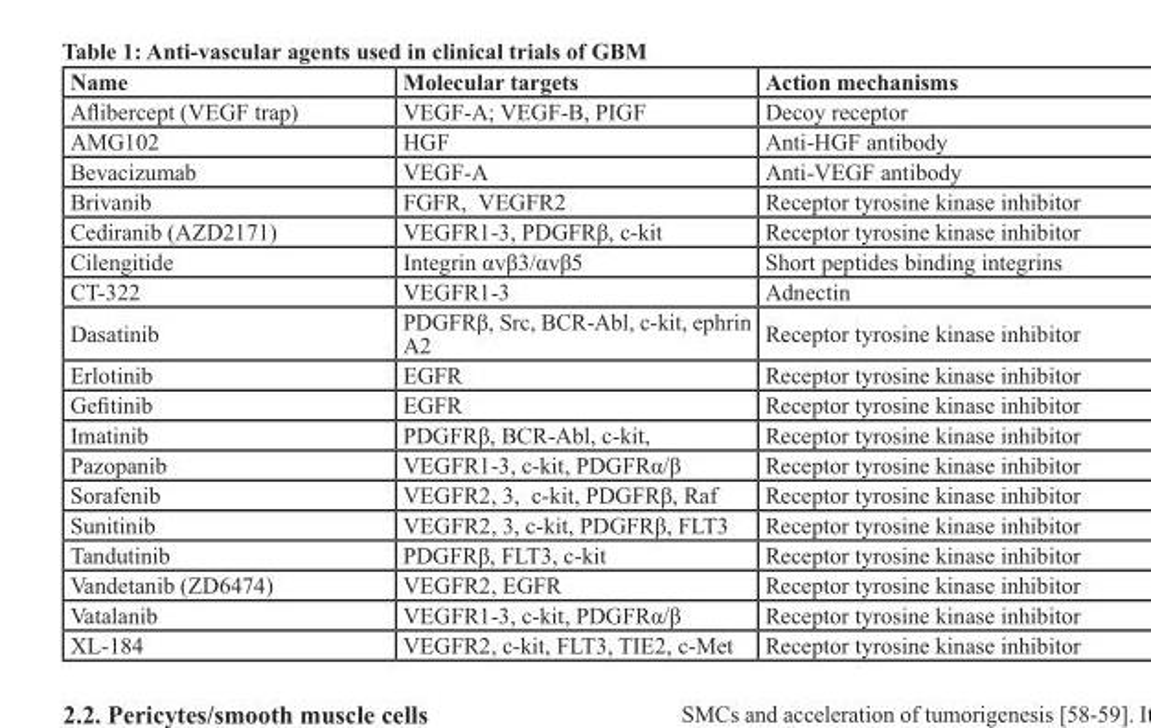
<table><thead><tr><td>Name</td><td>Molecular targets</td><td>Action mechanisms</td></tr></thead><tbody><tr><td>Aflibercept (VEGF trap)</td><td>VEGF-A; VEGF-B, PIGF</td><td>Decoy receptor</td></tr><tr><td>AMG102</td><td>HGF</td><td>Anti-HGF antibody</td></tr><tr><td>Bevacizumab</td><td>VEGF-A</td><td>Anti-VEGF antibody</td></tr><tr><td>Brivanib</td><td>FGFR, VEGFR2</td><td>Receptor tyrosine kinase inhibitor</td></tr><tr><td>Cediranib (AZD2171)</td><td>VEGFR1-3, PDGFRβ, c-kit</td><td>Receptor tyrosine kinase inhibitor</td></tr><tr><td>Cilengitide</td><td>Integrin αvβ3/αvβ5</td><td>Short peptides binding integrins</td></tr><tr><td>CT-322</td><td>VEGFR1-3</td><td>Adnectin</td></tr><tr><td>Dasatinib</td><td>PDGFRβ, Src, BCR-Abl, c-kit, ephrin A2</td><td>Receptor tyrosine kinase inhibitor</td></tr><tr><td>Erlotinib</td><td>EGFR</td><td>Receptor tyrosine kinase inhibitor</td></tr><tr><td>Gefitinib</td><td>EGFR</td><td>Receptor tyrosine kinase inhibitor</td></tr><tr><td>Imatinib</td><td>PDGFRβ, BCR-Abl, c-kit,</td><td>Receptor tyrosine kinase inhibitor</td></tr><tr><td>Pazopanib</td><td>VEGFR1-3, c-kit, PDGFRα/β</td><td>Receptor tyrosine kinase inhibitor</td></tr><tr><td>Sorafenib</td><td>VEGFR2, 3, c-kit, PDGFRβ, Raf</td><td>Receptor tyrosine kinase inhibitor</td></tr><tr><td>Sunitinib</td><td>VEGFR2, 3, c-kit, PDGFRβ, FLT3</td><td>Receptor tyrosine kinase inhibitor</td></tr><tr><td>Tandutinib</td><td>PDGFRβ, FLT3, c-kit</td><td>Receptor tyrosine kinase inhibitor</td></tr><tr><td>Vandetanib (ZD6474)</td><td>VEGFR2, EGFR</td><td>Receptor tyrosine kinase inhibitor</td></tr><tr><td>Vatalanib</td><td>VEGFR1-3, c-kit, PDGFRα/β</td><td>Receptor tyrosine kinase inhibitor</td></tr><tr><td>XL-184</td><td>VEGFR2, c-kit, FLT3, TIE2, c-Met</td><td>Receptor tyrosine kinase inhibitor</td></tr></tbody></table>